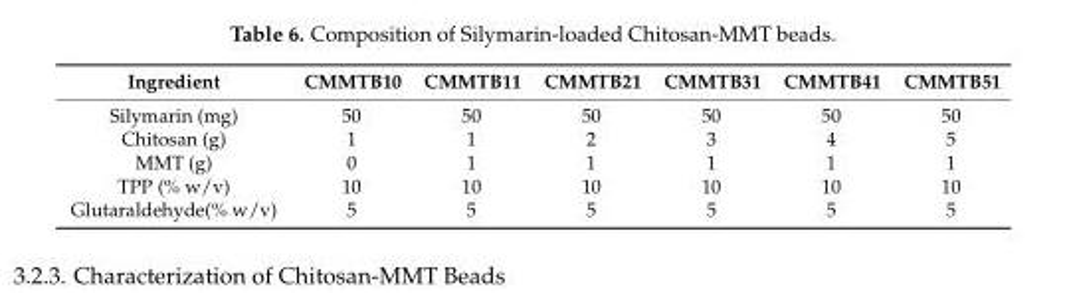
<table><thead><tr><td>Ingredient</td><td>CMMTB10</td><td>CMMTB11</td><td>CMMTB21</td><td>CMMTB31</td><td>CMMTB41</td><td>CMMTB51</td></tr></thead><tbody><tr><td>Silymarin (mg)</td><td>50</td><td>50</td><td>50</td><td>50</td><td>50</td><td>50</td></tr><tr><td>Chitosan (g)</td><td>1</td><td>1</td><td>2</td><td>3</td><td>4</td><td>5</td></tr><tr><td>MMT (g)</td><td>0</td><td>1</td><td>1</td><td>1</td><td>1</td><td>1</td></tr><tr><td>TPP (% w/v)</td><td>10</td><td>10</td><td>10</td><td>10</td><td>10</td><td>10</td></tr><tr><td>Glutaraldehyde(% w/v)</td><td>5</td><td>5</td><td>5</td><td>5</td><td>5</td><td>5</td></tr></tbody></table>